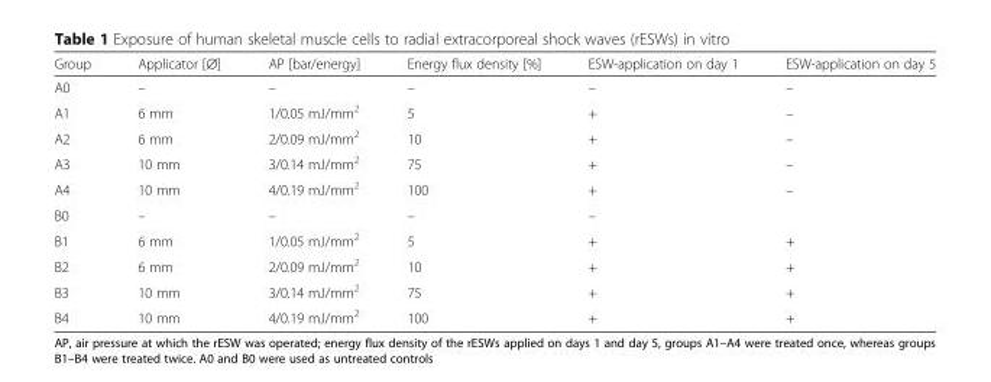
<table><thead><tr><td>Group</td><td>Applicator [∅]</td><td>AP [bar/energy]</td><td>Energy flux density [%]</td><td>ESW-application on day 1</td><td>ESW-application on day 5</td></tr></thead><tbody><tr><td>A0</td><td>–</td><td>–</td><td>–</td><td>–</td><td>–</td></tr><tr><td>A1</td><td>6 mm</td><td>1/0.05 mJ/mm<sup>2</sup></td><td>5</td><td>+</td><td>–</td></tr><tr><td>A2</td><td>6 mm</td><td>2/0.09 mJ/mm<sup>2</sup></td><td>10</td><td>+</td><td>–</td></tr><tr><td>A3</td><td>10 mm</td><td>3/0.14 mJ/mm<sup>2</sup></td><td>75</td><td>+</td><td>–</td></tr><tr><td>A4</td><td>10 mm</td><td>4/0.19 mJ/mm<sup>2</sup></td><td>100</td><td>+</td><td>–</td></tr><tr><td>B0</td><td>–</td><td>–</td><td>–</td><td>–</td><td></td></tr><tr><td>B1</td><td>6 mm</td><td>1/0.05 mJ/mm<sup>2</sup></td><td>5</td><td>+</td><td>+</td></tr><tr><td>B2</td><td>6 mm</td><td>2/0.09 mJ/mm<sup>2</sup></td><td>10</td><td>+</td><td>+</td></tr><tr><td>B3</td><td>10 mm</td><td>3/0.14 mJ/mm<sup>2</sup></td><td>75</td><td>+</td><td>+</td></tr><tr><td>B4</td><td>10 mm</td><td>4/0.19 mJ/mm<sup>2</sup></td><td>100</td><td>+</td><td>+</td></tr></tbody></table>